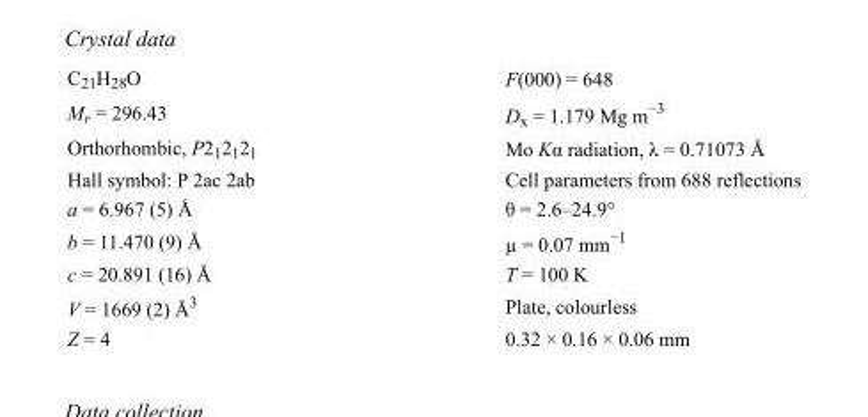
<table><tbody><tr><td>C<sub>21</sub>H<sub>28</sub>O</td><td>F(000) = 648</td></tr><tr><td>M<sub>r</sub> = 296.43</td><td>D<sub>x</sub> = 1.179 Mg m<sup>−3</sup></td></tr><tr><td>Orthorhombic, P2<sub>1</sub>2<sub>1</sub>2<sub>1</sub></td><td>Mo Kα radiation, λ = 0.71073 Å</td></tr><tr><td>Hall symbol: P 2ac 2ab</td><td>Cell parameters from 688 reflections</td></tr><tr><td>a = 6.967 (5) Å</td><td>θ = 2.6–24.9°</td></tr><tr><td>b = 11.470 (9) Å</td><td>µ = 0.07 mm<sup>−1</sup></td></tr><tr><td>c = 20.891 (16) Å</td><td>T = 100 K</td></tr><tr><td>V = 1669 (2) Å<sup>3</sup></td><td>Plate, colourless</td></tr><tr><td>Z = 4</td><td>0.32 × 0.16 × 0.06 mm</td></tr></tbody></table>